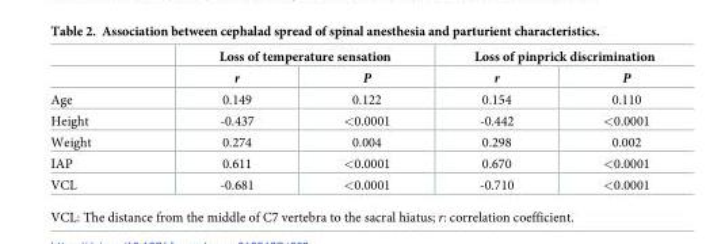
<table><thead><tr><td rowspan="2"></td><td colspan="2">Loss of temperature sensation</td><td colspan="2">Loss of pinprick discrimination</td></tr><tr><td>r</td><td>P</td><td>r</td><td>P</td></tr></thead><tbody><tr><td>Age</td><td>0.149</td><td>0.122</td><td>0.154</td><td>0.110</td></tr><tr><td>Height</td><td>-0.437</td><td>&lt;0.0001</td><td>-0.442</td><td>&lt;0.0001</td></tr><tr><td>Weight</td><td>0.274</td><td>0.004</td><td>0.298</td><td>0.002</td></tr><tr><td>IAP</td><td>0.611</td><td>&lt;0.0001</td><td>0.670</td><td>&lt;0.0001</td></tr><tr><td>VCL</td><td>-0.681</td><td>&lt;0.0001</td><td>-0.710</td><td>&lt;0.0001</td></tr></tbody></table>